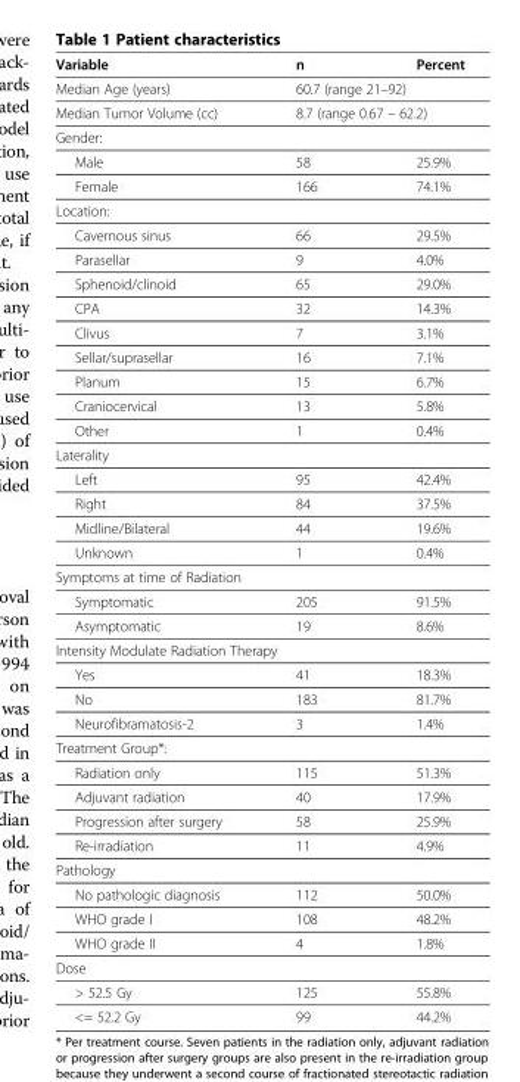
<table><thead><tr><td>Variable</td><td>n</td><td>Percent</td></tr></thead><tbody><tr><td>Median Age (years)</td><td colspan="2">60.7 (range 21–92)</td></tr><tr><td>Median Tumor Volume (cc)</td><td colspan="2">8.7 (range 0.67 – 62.2)</td></tr><tr><td colspan="3">Gender:</td></tr><tr><td>Male</td><td>58</td><td>25.9%</td></tr><tr><td>Female</td><td>166</td><td>74.1%</td></tr><tr><td colspan="3">Location:</td></tr><tr><td>Cavernous sinus</td><td>66</td><td>29.5%</td></tr><tr><td>Parasellar</td><td>9</td><td>4.0%</td></tr><tr><td>Sphenoid/clinoid</td><td>65</td><td>29.0%</td></tr><tr><td>CPA</td><td>32</td><td>14.3%</td></tr><tr><td>Clivus</td><td>7</td><td>3.1%</td></tr><tr><td>Sellar/suprasellar</td><td>16</td><td>7.1%</td></tr><tr><td>Planum</td><td>15</td><td>6.7%</td></tr><tr><td>Craniocervical</td><td>13</td><td>5.8%</td></tr><tr><td>Other</td><td>1</td><td>0.4%</td></tr><tr><td colspan="3">Laterality</td></tr><tr><td>Left</td><td>95</td><td>42.4%</td></tr><tr><td>Right</td><td>84</td><td>37.5%</td></tr><tr><td>Midline/Bilateral</td><td>44</td><td>19.6%</td></tr><tr><td>Unknown</td><td>1</td><td>0.4%</td></tr><tr><td colspan="3">Symptoms at time of Radiation</td></tr><tr><td>Symptomatic</td><td>205</td><td>91.5%</td></tr><tr><td>Asymptomatic</td><td>19</td><td>8.6%</td></tr><tr><td colspan="3">Intensity Modulate Radiation Therapy</td></tr><tr><td>Yes</td><td>41</td><td>18.3%</td></tr><tr><td>No</td><td>183</td><td>81.7%</td></tr><tr><td>Neurofibramatosis-2</td><td>3</td><td>1.4%</td></tr><tr><td colspan="3">Treatment Group*:</td></tr><tr><td>Radiation only</td><td>115</td><td>51.3%</td></tr><tr><td>Adjuvant radiation</td><td>40</td><td>17.9%</td></tr><tr><td>Progression after surgery</td><td>58</td><td>25.9%</td></tr><tr><td>Re-irradiation</td><td>11</td><td>4.9%</td></tr><tr><td colspan="3">Pathology</td></tr><tr><td>No pathologic diagnosis</td><td>112</td><td>50.0%</td></tr><tr><td>WHO grade I</td><td>108</td><td>48.2%</td></tr><tr><td>WHO grade II</td><td>4</td><td>1.8%</td></tr><tr><td colspan="3">Dose</td></tr><tr><td>&gt; 52.5 Gy</td><td>125</td><td>55.8%</td></tr><tr><td>&lt;= 52.2 Gy</td><td>99</td><td>44.2%</td></tr></tbody></table>